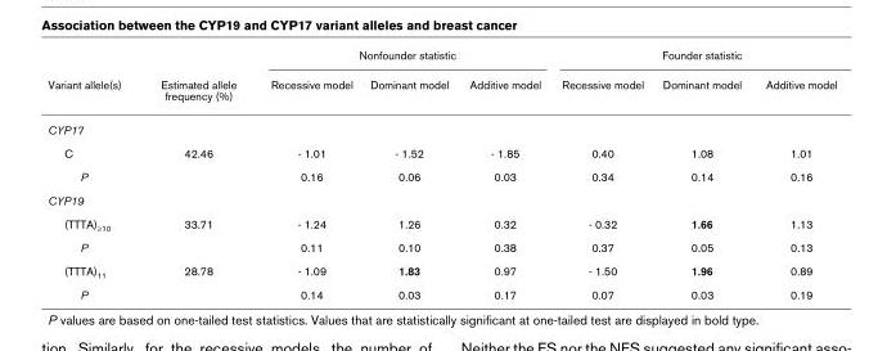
<table><thead><tr><td rowspan="2">Variant allele(s)</td><td rowspan="2">Estimated allele frequency (%)</td><td colspan="3">Nonfounder statistic</td><td colspan="3">Founder statistic</td></tr><tr><td>Recessive model</td><td>Dominant model</td><td>Additive model</td><td>Recessive model</td><td>Dominant model</td><td>Additive model</td></tr></thead><tbody><tr><td colspan="8">CYP17</td></tr><tr><td>C</td><td>42.46</td><td>- 1.01</td><td>- 1.52</td><td>- 1.85</td><td>0.40</td><td>1.08</td><td>1.01</td></tr><tr><td>P</td><td></td><td>0.16</td><td>0.06</td><td>0.03</td><td>0.34</td><td>0.14</td><td>0.16</td></tr><tr><td colspan="8">CYP19</td></tr><tr><td>(TTTA)≥10</td><td>33.71</td><td>- 1.24</td><td>1.26</td><td>0.32</td><td>- 0.32</td><td>1.66</td><td>1.13</td></tr><tr><td>P</td><td></td><td>0.11</td><td>0.10</td><td>0.38</td><td>0.37</td><td>0.05</td><td>0.13</td></tr><tr><td>(TTTA)11</td><td>28.78</td><td>- 1.09</td><td>1.83</td><td>0.97</td><td>- 1.50</td><td>1.96</td><td>0.89</td></tr><tr><td>P</td><td></td><td>0.14</td><td>0.03</td><td>0.17</td><td>0.07</td><td>0.03</td><td>0.19</td></tr></tbody></table>